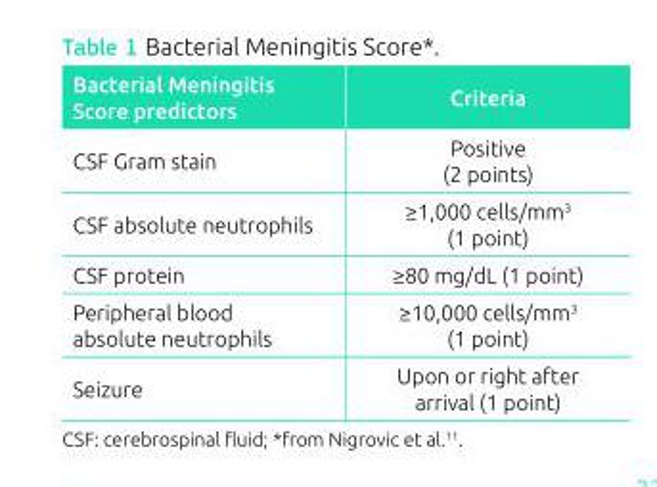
<table><thead><tr><td>Bacterial Meningitis Score predictors</td><td>Criteria</td></tr></thead><tbody><tr><td>CSF Gram stain</td><td>Positive (2 points)</td></tr><tr><td>CSF absolute neutrophils</td><td>≥1,000 cells/mm<sup>3</sup> (1 point)</td></tr><tr><td>CSF protein</td><td>≥80 mg/dL (1 point)</td></tr><tr><td>Peripheral blood absolute neutrophils</td><td>≥10,000 cells/mm<sup>3</sup> (1 point)</td></tr><tr><td>Seizure</td><td>Upon or right after arrival (1 point)</td></tr></tbody></table>